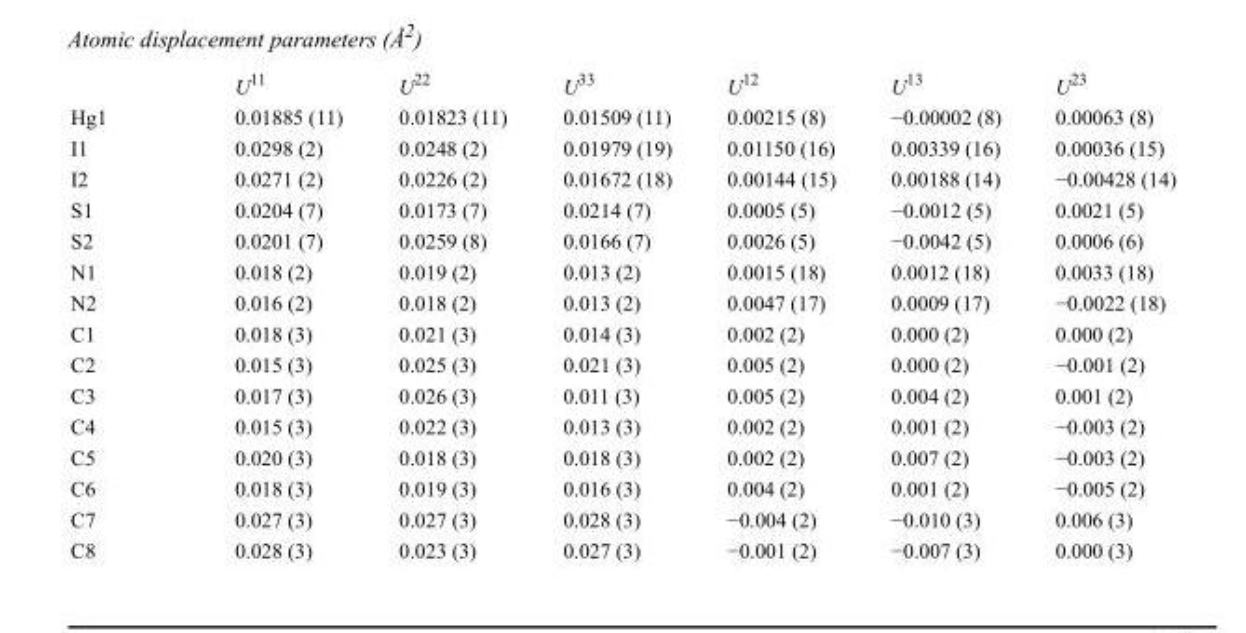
<table><thead><tr><td></td><td>U<sup>11</sup></td><td>U<sup>22</sup></td><td>U<sup>33</sup></td><td>U<sup>12</sup></td><td>U<sup>13</sup></td><td>U<sup>23</sup></td></tr></thead><tbody><tr><td>Hg1</td><td>0.01885 (11)</td><td>0.01823 (11)</td><td>0.01509 (11)</td><td>0.00215 (8)</td><td>−0.00002 (8)</td><td>0.00063 (8)</td></tr><tr><td>I1</td><td>0.0298 (2)</td><td>0.0248 (2)</td><td>0.01979 (19)</td><td>0.01150 (16)</td><td>0.00339 (16)</td><td>0.00036 (15)</td></tr><tr><td>I2</td><td>0.0271 (2)</td><td>0.0226 (2)</td><td>0.01672 (18)</td><td>0.00144 (15)</td><td>0.00188 (14)</td><td>−0.00428 (14)</td></tr><tr><td>S1</td><td>0.0204 (7)</td><td>0.0173 (7)</td><td>0.0214 (7)</td><td>0.0005 (5)</td><td>−0.0012 (5)</td><td>0.0021 (5)</td></tr><tr><td>S2</td><td>0.0201 (7)</td><td>0.0259 (8)</td><td>0.0166 (7)</td><td>0.0026 (5)</td><td>−0.0042 (5)</td><td>0.0006 (6)</td></tr><tr><td>N1</td><td>0.018 (2)</td><td>0.019 (2)</td><td>0.013 (2)</td><td>0.0015 (18)</td><td>0.0012 (18)</td><td>0.0033 (18)</td></tr><tr><td>N2</td><td>0.016 (2)</td><td>0.018 (2)</td><td>0.013 (2)</td><td>0.0047 (17)</td><td>0.0009 (17)</td><td>−0.0022 (18)</td></tr><tr><td>C1</td><td>0.018 (3)</td><td>0.021 (3)</td><td>0.014 (3)</td><td>0.002 (2)</td><td>0.000 (2)</td><td>0.000 (2)</td></tr><tr><td>C2</td><td>0.015 (3)</td><td>0.025 (3)</td><td>0.021 (3)</td><td>0.005 (2)</td><td>0.000 (2)</td><td>−0.001 (2)</td></tr><tr><td>C3</td><td>0.017 (3)</td><td>0.026 (3)</td><td>0.011 (3)</td><td>0.005 (2)</td><td>0.004 (2)</td><td>0.001 (2)</td></tr><tr><td>C4</td><td>0.015 (3)</td><td>0.022 (3)</td><td>0.013 (3)</td><td>0.002 (2)</td><td>0.001 (2)</td><td>−0.003 (2)</td></tr><tr><td>C5</td><td>0.020 (3)</td><td>0.018 (3)</td><td>0.018 (3)</td><td>0.002 (2)</td><td>0.007 (2)</td><td>−0.003 (2)</td></tr><tr><td>C6</td><td>0.018 (3)</td><td>0.019 (3)</td><td>0.016 (3)</td><td>0.004 (2)</td><td>0.001 (2)</td><td>−0.005 (2)</td></tr><tr><td>C7</td><td>0.027 (3)</td><td>0.027 (3)</td><td>0.028 (3)</td><td>−0.004 (2)</td><td>−0.010 (3)</td><td>0.006 (3)</td></tr><tr><td>C8</td><td>0.028 (3)</td><td>0.023 (3)</td><td>0.027 (3)</td><td>−0.001 (2)</td><td>−0.007 (3)</td><td>0.000 (3)</td></tr></tbody></table>